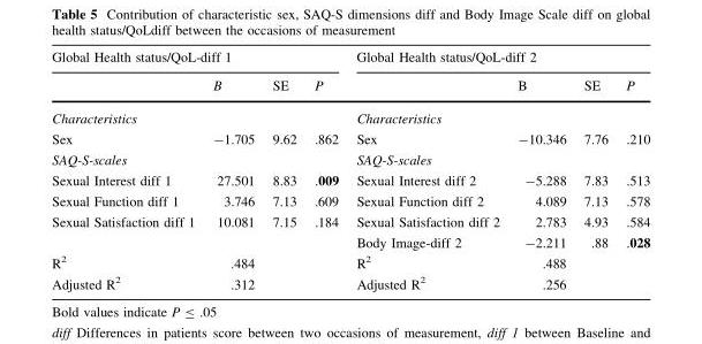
<table><thead><tr><td colspan="4">Global Health status/QoL-diff 1</td><td colspan="4">Global Health status/QoL-diff 2</td></tr><tr><td></td><td>B</td><td>SE</td><td>P</td><td></td><td>B</td><td>SE</td><td>P</td></tr></thead><tbody><tr><td colspan="4">Characteristics</td><td colspan="4">Characteristics</td></tr><tr><td>Sex</td><td>-1.705</td><td>9.62</td><td>.862</td><td>Sex</td><td>-10.346</td><td>7.76</td><td>.210</td></tr><tr><td colspan="4">SAQ-S-scales</td><td colspan="4">SAQ-S-scales</td></tr><tr><td>Sexual Interest diff 1</td><td>27.501</td><td>8.83</td><td>.009</td><td>Sexual Interest diff 2</td><td>-5.288</td><td>7.83</td><td>.513</td></tr><tr><td>Sexual Function diff 1</td><td>3.746</td><td>7.13</td><td>.609</td><td>Sexual Function diff 2</td><td>4.089</td><td>7.13</td><td>.578</td></tr><tr><td rowspan="2">Sexual Satisfaction diff 1</td><td>10.081</td><td>7.15</td><td>.184</td><td>Sexual Satisfaction diff 2</td><td>2.783</td><td>4.93</td><td>.584</td></tr><tr><td></td><td></td><td></td><td>Body Image-diff 2</td><td>-2.211</td><td>.88</td><td>.028</td></tr><tr><td>R<sup>2</sup></td><td>.484</td><td></td><td></td><td>R<sup>2</sup></td><td>.488</td><td></td><td></td></tr><tr><td>Adjusted R<sup>2</sup></td><td>.312</td><td></td><td></td><td>Adjusted R<sup>2</sup></td><td>.256</td><td></td><td></td></tr></tbody></table>